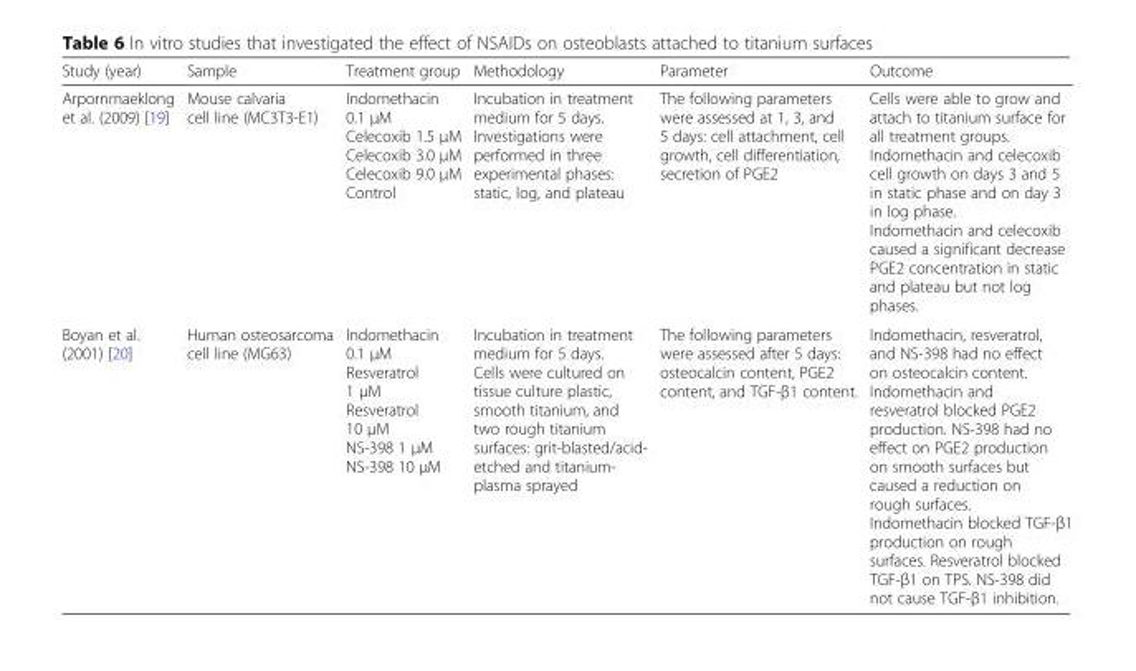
<table><thead><tr><td>Study (year)</td><td>Sample</td><td>Treatment group</td><td>Methodology</td><td>Parameter</td><td>Outcome</td></tr></thead><tbody><tr><td>Arpornmaeklong et al. (2009) [19]</td><td>Mouse calvaria cell line (MC3T3-E1)</td><td>Indomethacin 0.1 μM Celecoxib 1.5 μM Celecoxib 3.0 μM Celecoxib 9.0 μM Control</td><td>Incubation in treatment medium for 5 days. Investigations were performed in three experimental phases: static, log, and plateau</td><td>The following parameters were assessed at 1, 3, and 5 days: cell attachment, cell growth, cell differentiation, secretion of PGE2</td><td>Cells were able to grow and attach to titanium surface for all treatment groups. Indomethacin and celecoxib cell growth on days 3 and 5 in static phase and on day 3 in log phase. Indomethacin and celecoxib caused a significant decrease PGE2 concentration in static and plateau but not log phases.</td></tr><tr><td>Boyan et al. (2001) [20]</td><td>Human osteosarcoma cell line (MG63)</td><td>Indomethacin 0.1 μM Resveratrol 1 μM Resveratrol 10 μM NS-398 1 μM NS-398 10 μM</td><td>Incubation in treatment medium for 5 days. Cells were cultured on tissue culture plastic, smooth titanium, and two rough titanium surfaces: grit-blasted/acid- etched and titanium- plasma sprayed</td><td>The following parameters were assessed after 5 days: osteocalcin content, PGE2 content, and TGF-β1 content.</td><td>Indomethacin, resveratrol, and NS-398 had no effect on osteocalcin content. Indomethacin and resveratrol blocked PGE2 production. NS-398 had no effect on PGE2 production on smooth surfaces but caused a reduction on rough surfaces. Indomethacin blocked TGF-β1 production on rough surfaces. Resveratrol blocked TGF-β1 on TPS. NS-398 did not cause TGF-β1 inhibition.</td></tr></tbody></table>